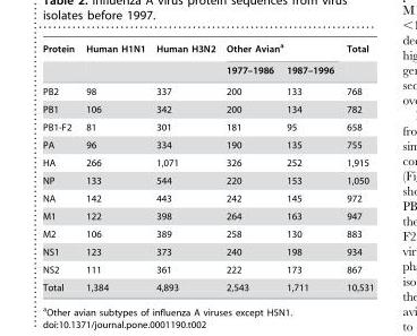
<table><thead><tr><td rowspan="2">Protein</td><td rowspan="2">Human H1N1</td><td rowspan="2">Human H3N2</td><td colspan="2">Other Avian<sup>a</sup></td><td rowspan="2">Total</td></tr><tr><td>1977–1986</td><td>1987–1996</td></tr></thead><tbody><tr><td>PB2</td><td>98</td><td>337</td><td>200</td><td>133</td><td>768</td></tr><tr><td>PB1</td><td>106</td><td>342</td><td>200</td><td>134</td><td>782</td></tr><tr><td>PB1-F2</td><td>81</td><td>301</td><td>181</td><td>95</td><td>658</td></tr><tr><td>PA</td><td>96</td><td>334</td><td>190</td><td>135</td><td>755</td></tr><tr><td>HA</td><td>266</td><td>1,071</td><td>326</td><td>252</td><td>1,915</td></tr><tr><td>NP</td><td>133</td><td>544</td><td>220</td><td>153</td><td>1,050</td></tr><tr><td>NA</td><td>142</td><td>443</td><td>242</td><td>145</td><td>972</td></tr><tr><td>M1</td><td>122</td><td>398</td><td>264</td><td>163</td><td>947</td></tr><tr><td>M2</td><td>106</td><td>389</td><td>258</td><td>130</td><td>883</td></tr><tr><td>NS1</td><td>123</td><td>373</td><td>240</td><td>198</td><td>934</td></tr><tr><td>NS2</td><td>111</td><td>361</td><td>222</td><td>173</td><td>867</td></tr><tr><td>Total</td><td>1,384</td><td>4,893</td><td>2,543</td><td>1,711</td><td>10,531</td></tr></tbody></table>